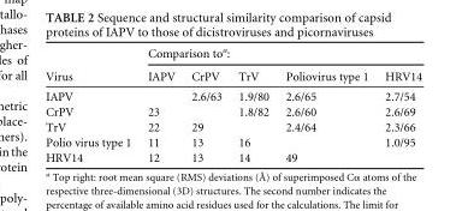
<table><thead><tr><td rowspan="2">Virus</td><td colspan="5">Comparison to<sup>a</sup>:</td></tr><tr><td>IAPV</td><td>CrPV</td><td>TrV</td><td>Poliovirus type 1</td><td>HRV14</td></tr></thead><tbody><tr><td>IAPV</td><td></td><td>2.6/63</td><td>1.9/80</td><td>2.6/65</td><td>2.7/54</td></tr><tr><td>CrPV</td><td>23</td><td></td><td>1.8/82</td><td>2.6/60</td><td>2.6/69</td></tr><tr><td>TrV</td><td>22</td><td>29</td><td></td><td>2.4/64</td><td>2.3/66</td></tr><tr><td>Polio virus type 1</td><td>11</td><td>13</td><td>16</td><td></td><td>1.0/95</td></tr><tr><td>HRV14</td><td>12</td><td>13</td><td>14</td><td>49</td><td></td></tr></tbody></table>